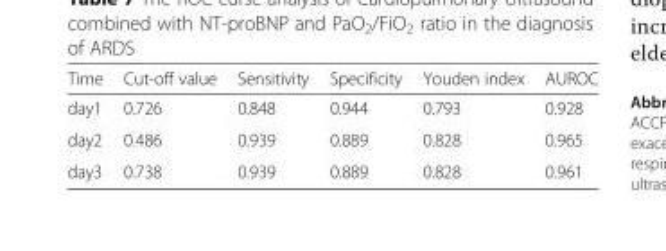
<table><thead><tr><td>Time</td><td>Cut-off value</td><td>Sensitivity</td><td>Specificity</td><td>Youden index</td><td>AUROC</td></tr></thead><tbody><tr><td>day1</td><td>0.726</td><td>0.848</td><td>0.944</td><td>0.793</td><td>0.928</td></tr><tr><td>day2</td><td>0.486</td><td>0.939</td><td>0.889</td><td>0.828</td><td>0.965</td></tr><tr><td>day3</td><td>0.738</td><td>0.939</td><td>0.889</td><td>0.828</td><td>0.961</td></tr></tbody></table>